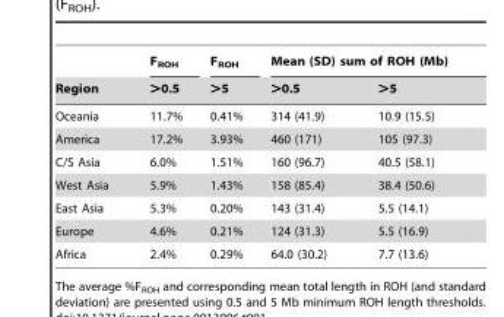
<table><thead><tr><td rowspan="2">Region</td><td rowspan="2">F<sub>ROH</sub> &gt;0.5</td><td rowspan="2">F<sub>ROH</sub> &gt;5</td><td colspan="2">Mean (SD) sum of ROH (Mb)</td></tr><tr><td>&gt;0.5</td><td>&gt;5</td></tr></thead><tbody><tr><td>Oceania</td><td>11.7%</td><td>0.41%</td><td>314 (41.9)</td><td>10.9 (15.5)</td></tr><tr><td>America</td><td>17.2%</td><td>3.93%</td><td>460 (171)</td><td>105 (97.3)</td></tr><tr><td>C/S Asia</td><td>6.0%</td><td>1.51%</td><td>160 (96.7)</td><td>40.5 (58.1)</td></tr><tr><td>West Asia</td><td>5.9%</td><td>1.43%</td><td>158 (85.4)</td><td>38.4 (50.6)</td></tr><tr><td>East Asia</td><td>5.3%</td><td>0.20%</td><td>143 (31.4)</td><td>5.5 (14.1)</td></tr><tr><td>Europe</td><td>4.6%</td><td>0.21%</td><td>124 (31.3)</td><td>5.5 (16.9)</td></tr><tr><td>Africa</td><td>2.4%</td><td>0.29%</td><td>64.0 (30.2)</td><td>7.7 (13.6)</td></tr></tbody></table>